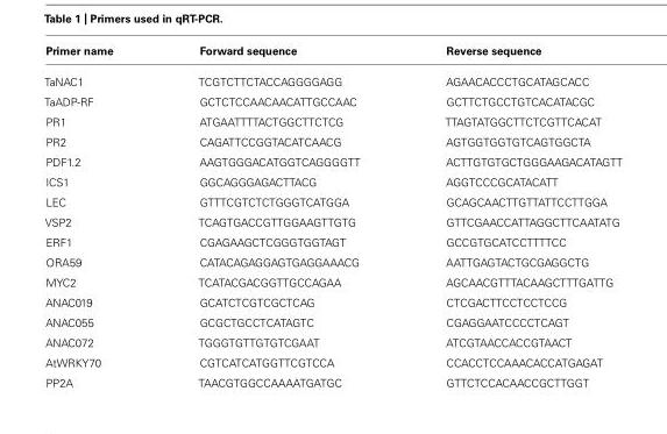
<table><thead><tr><td>Primer name</td><td>Forward sequence</td><td>Reverse sequence</td></tr></thead><tbody><tr><td>TaNAC1</td><td>TCGTCTTCTACCAGGGGAGG</td><td>AGAACACCCTGCATAGCACC</td></tr><tr><td>TaADP-RF</td><td>GCTCTCCAACAACATTGCCAAC</td><td>GCTTCTGCCTGTCACATACGC</td></tr><tr><td>PR1</td><td>ATGAATTTTACTGGCTTCTCG</td><td>TTAGTATGGCTTCTCGTTCACAT</td></tr><tr><td>PR2</td><td>CAGATTCCGGTACATCAACG</td><td>AGTGGTGGTGTCAGTGGCTA</td></tr><tr><td>PDF1.2</td><td>AAGTGGGACATGGTCAGGGGTT</td><td>ACTTGTGTGCTGGGAAGACATAGTT</td></tr><tr><td>ICS1</td><td>GGCAGGGAGACTTACG</td><td>AGGTCCCGCATACATT</td></tr><tr><td>LEC</td><td>GTTTCGTCTCTGGGTCATGGA</td><td>GCAGCAACTTGTTATTCCTTGGA</td></tr><tr><td>VSP2</td><td>TCAGTGACCGTTGGAAGTTGTG</td><td>GTTCGAACCATTAGGCTTCAATATG</td></tr><tr><td>ERF1</td><td>CGAGAAGCTCGGGTGGTAGT</td><td>GCCGTGCATCCTTTTCC</td></tr><tr><td>ORA59</td><td>CATACAGAGGAGTGAGGAAACG</td><td>AATTGAGTACTGCGAGGCTG</td></tr><tr><td>MYC2</td><td>TCATACGACGGTTGCCAGAA</td><td>AGCAACGTTTACAAGCTTTGATTG</td></tr><tr><td>ANAC019</td><td>GCATCTCGTCGCTCAG</td><td>CTCGACTTCCTCCTCCG</td></tr><tr><td>ANAC055</td><td>GCGCTGCCTCATAGTC</td><td>CGAGGAATCCCCTCAGT</td></tr><tr><td>ANAC072</td><td>TGGGTGTTGTGTCGAAT</td><td>ATCGTAACCACCGTAACT</td></tr><tr><td>AtWRKY70</td><td>CGTCATCATGGTTCGTCCA</td><td>CCACCTCCAAACACCATGAGAT</td></tr><tr><td>PP2A</td><td>TAACGTGGCCAAAATGATGC</td><td>GTTCTCCACAACCGCTTGGT</td></tr></tbody></table>